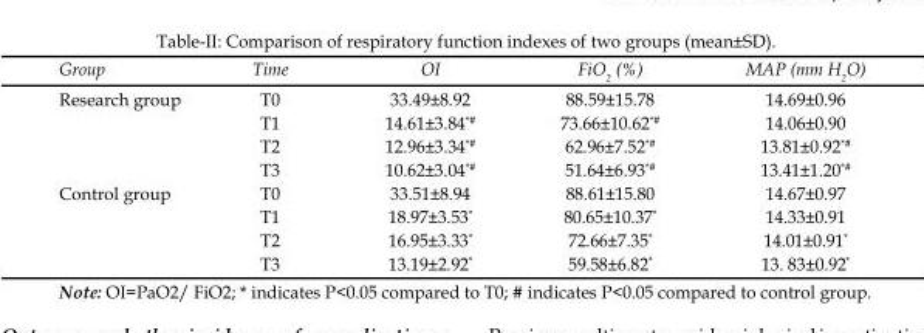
<table><thead><tr><td>Group</td><td>Time</td><td>OI</td><td>FiO<sub>2</sub> (%)</td><td>MAP (mm H<sub>2</sub>O)</td></tr></thead><tbody><tr><td rowspan="4">Research group</td><td>T0</td><td>33.49±8.92</td><td>88.59±15.78</td><td>14.69±0.96</td></tr><tr><td>T1</td><td>14.61±3.84*<sup>#</sup></td><td>73.66±10.62*<sup>#</sup></td><td>14.06±0.90</td></tr><tr><td>T2</td><td>12.96±3.34*<sup>#</sup></td><td>62.96±7.52*<sup>#</sup></td><td>13.81±0.92*<sup>#</sup></td></tr><tr><td>T3</td><td>10.62±3.04*<sup>#</sup></td><td>51.64±6.93*<sup>#</sup></td><td>13.41±1.20*<sup>#</sup></td></tr><tr><td rowspan="4">Control group</td><td>T0</td><td>33.51±8.94</td><td>88.61±15.80</td><td>14.67±0.97</td></tr><tr><td>T1</td><td>18.97±3.53*</td><td>80.65±10.37*</td><td>14.33±0.91</td></tr><tr><td>T2</td><td>16.95±3.33*</td><td>72.66±7.35*</td><td>14.01±0.91*</td></tr><tr><td>T3</td><td>13.19±2.92*</td><td>59.58±6.82*</td><td>13. 83±0.92*</td></tr></tbody></table>